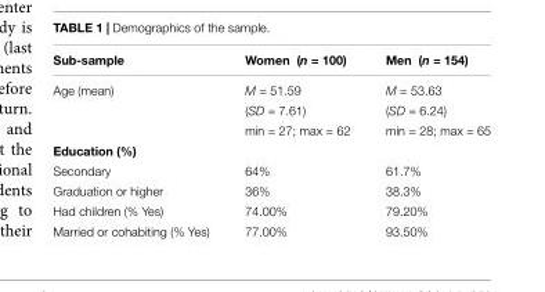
<table><thead><tr><td>Sub-sample</td><td>Women (n = 100)</td><td>Men (n = 154)</td></tr></thead><tbody><tr><td rowspan="3">Age (mean)</td><td>M = 51.59</td><td>M = 53.63</td></tr><tr><td>(SD = 7.61)</td><td>(SD = 6.24)</td></tr><tr><td>min = 27; max = 62</td><td>min = 28; max = 65</td></tr><tr><td colspan="3">Education (%)</td></tr><tr><td>Secondary</td><td>64%</td><td>61.7%</td></tr><tr><td>Graduation or higher</td><td>36%</td><td>38.3%</td></tr><tr><td>Had children (% Yes)</td><td>74.00%</td><td>79.20%</td></tr><tr><td>Married or cohabiting (% Yes)</td><td>77.00%</td><td>93.50%</td></tr></tbody></table>